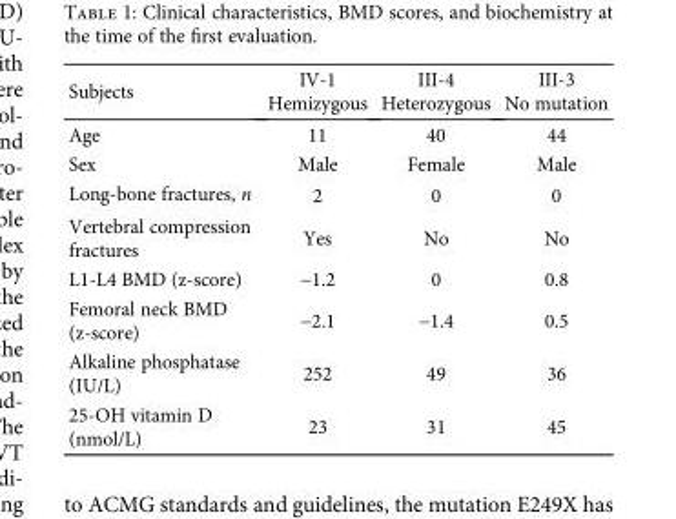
<table><thead><tr><td rowspan="2">Subjects</td><td rowspan="2">IV-1 Hemizygous</td><td rowspan="2">III-4 Heterozygous</td><td rowspan="2">III-3 No mutation</td></tr><tr></tr></thead><tbody><tr><td>Age</td><td>11</td><td>40</td><td>44</td></tr><tr><td>Sex</td><td>Male</td><td>Female</td><td>Male</td></tr><tr><td>Long-bone fractures, n</td><td>2</td><td>0</td><td>0</td></tr><tr><td>Vertebral compression fractures</td><td>Yes</td><td>No</td><td>No</td></tr><tr><td>L1-L4 BMD (z-score)</td><td>−1.2</td><td>0</td><td>0.8</td></tr><tr><td>Femoral neck BMD (z-score)</td><td>−2.1</td><td>−1.4</td><td>0.5</td></tr><tr><td>Alkaline phosphatase (IU/L)</td><td>252</td><td>49</td><td>36</td></tr><tr><td>25-OH vitamin D (nmol/L)</td><td>23</td><td>31</td><td>45</td></tr></tbody></table>